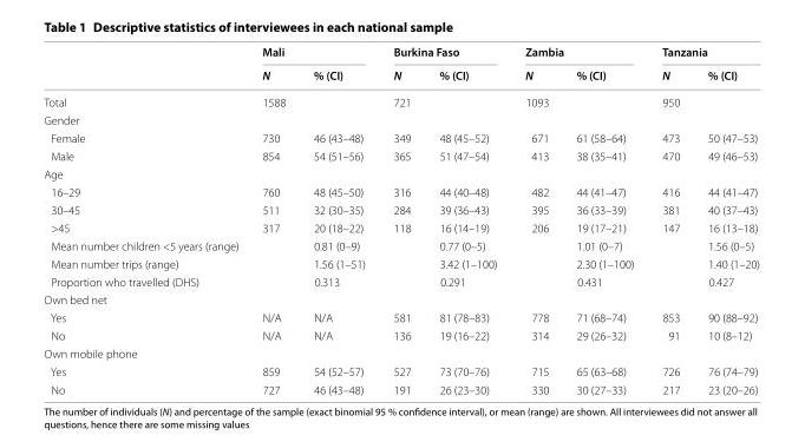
<table><thead><tr><td rowspan="2"></td><td colspan="2">Mali</td><td colspan="2">Burkina Faso</td><td colspan="2">Zambia</td><td colspan="2">Tanzania</td></tr><tr><td>N</td><td>% (CI)</td><td>N</td><td>% (CI)</td><td>N</td><td>% (CI)</td><td>N</td><td>% (CI)</td></tr></thead><tbody><tr><td>Total</td><td>1588</td><td></td><td>721</td><td></td><td>1093</td><td></td><td>950</td><td></td></tr><tr><td colspan="9">Gender</td></tr><tr><td>Female</td><td>730</td><td>46 (43–48)</td><td>349</td><td>48 (45–52)</td><td>671</td><td>61 (58–64)</td><td>473</td><td>50 (47–53)</td></tr><tr><td>Male</td><td>854</td><td>54 (51–56)</td><td>365</td><td>51 (47–54)</td><td>413</td><td>38 (35–41)</td><td>470</td><td>49 (46–53)</td></tr><tr><td colspan="9">Age</td></tr><tr><td>16–29</td><td>760</td><td>48 (45–50)</td><td>316</td><td>44 (40–48)</td><td>482</td><td>44 (41–47)</td><td>416</td><td>44 (41–47)</td></tr><tr><td>30–45</td><td>511</td><td>32 (30–35)</td><td>284</td><td>39 (36–43)</td><td>395</td><td>36 (33–39)</td><td>381</td><td>40 (37–43)</td></tr><tr><td>&gt;45</td><td>317</td><td>20 (18–22)</td><td>118</td><td>16 (14–19)</td><td>206</td><td>19 (17–21)</td><td>147</td><td>16 (13–18)</td></tr><tr><td>Mean number children &lt;5 years (range)</td><td></td><td>0.81 (0–9)</td><td></td><td>0.77 (0–5)</td><td></td><td>1.01 (0–7)</td><td></td><td>1.56 (0–5)</td></tr><tr><td>Mean number trips (range)</td><td></td><td>1.56 (1–51)</td><td></td><td>3.42 (1–100)</td><td></td><td>2.30 (1–100)</td><td></td><td>1.40 (1–20)</td></tr><tr><td>Proportion who travelled (DHS)</td><td></td><td>0.313</td><td></td><td>0.291</td><td></td><td>0.431</td><td></td><td>0.427</td></tr><tr><td colspan="9">Own bed net</td></tr><tr><td>Yes</td><td>N/A</td><td>N/A</td><td>581</td><td>81 (78–83)</td><td>778</td><td>71 (68–74)</td><td>853</td><td>90 (88–92)</td></tr><tr><td>No</td><td>N/A</td><td>N/A</td><td>136</td><td>19 (16–22)</td><td>314</td><td>29 (26–32)</td><td>91</td><td>10 (8–12)</td></tr><tr><td colspan="9">Own mobile phone</td></tr><tr><td>Yes</td><td>859</td><td>54 (52–57)</td><td>527</td><td>73 (70–76)</td><td>715</td><td>65 (63–68)</td><td>726</td><td>76 (74–79)</td></tr><tr><td>No</td><td>727</td><td>46 (43–48)</td><td>191</td><td>26 (23–30)</td><td>330</td><td>30 (27–33)</td><td>217</td><td>23 (20–26)</td></tr></tbody></table>